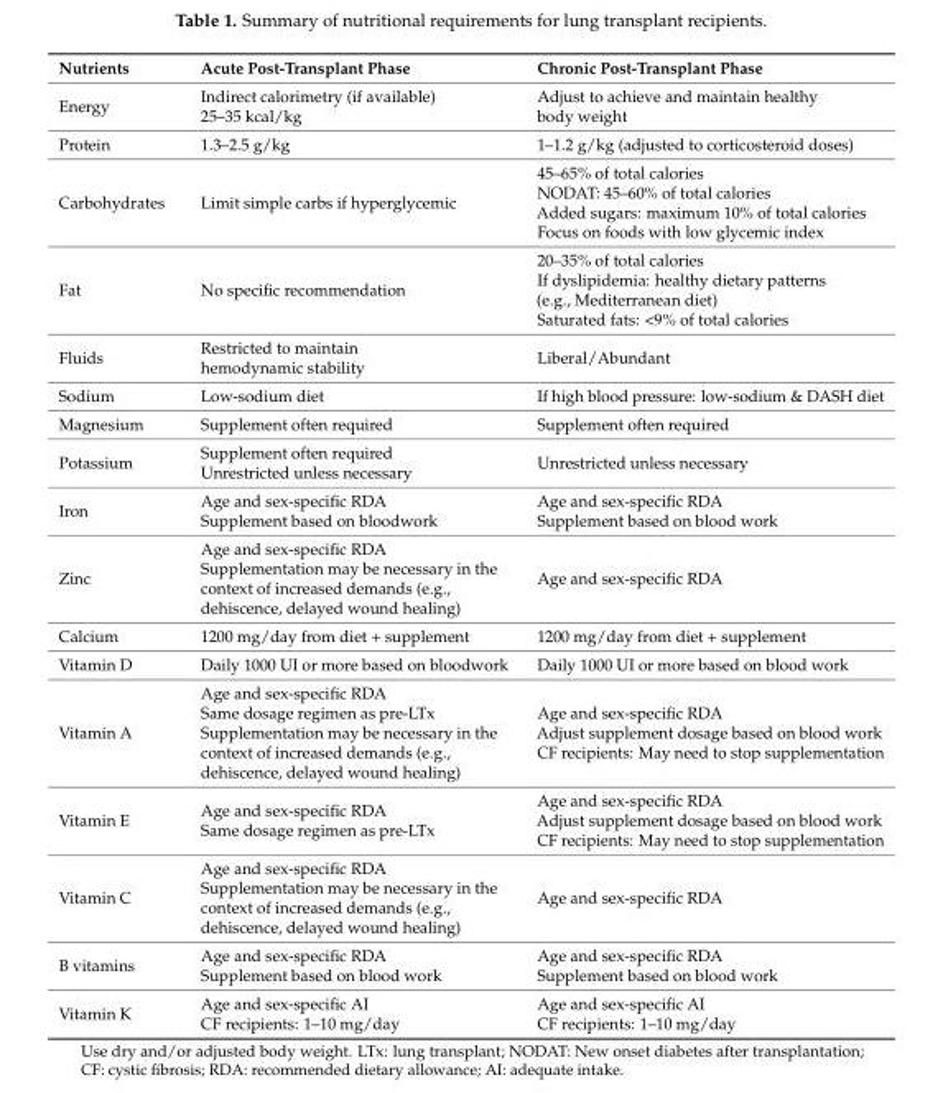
<table><thead><tr><td>Nutrients</td><td>Acute Post-Transplant Phase</td><td>Chronic Post-Transplant Phase</td></tr></thead><tbody><tr><td>Energy</td><td>Indirect calorimetry (if available) 25–35 kcal/kg</td><td>Adjust to achieve and maintain healthy body weight</td></tr><tr><td>Protein</td><td>1.3–2.5 g/kg</td><td>1–1.2 g/kg (adjusted to corticosteroid doses)</td></tr><tr><td>Carbohydrates</td><td>Limit simple carbs if hyperglycemic</td><td>45–65% of total calories NODAT: 45–60% of total calories Added sugars: maximum 10% of total calories Focus on foods with low glycemic index</td></tr><tr><td>Fat</td><td>No specific recommendation</td><td>20–35% of total calories If dyslipidemia: healthy dietary patterns (e.g., Mediterranean diet) Saturated fats: &lt;9% of total calories</td></tr><tr><td>Fluids</td><td>Restricted to maintain hemodynamic stability</td><td>Liberal/Abundant</td></tr><tr><td>Sodium</td><td>Low-sodium diet</td><td>If high blood pressure: low-sodium &amp; DASH diet</td></tr><tr><td>Magnesium</td><td>Supplement often required</td><td>Supplement often required</td></tr><tr><td>Potassium</td><td>Supplement often required Unrestricted unless necessary</td><td>Unrestricted unless necessary</td></tr><tr><td>Iron</td><td>Age and sex-specific RDA Supplement based on bloodwork</td><td>Age and sex-specific RDA Supplement based on blood work</td></tr><tr><td>Zinc</td><td>Age and sex-specific RDA Supplementation may be necessary in the context of increased demands (e.g., dehiscence, delayed wound healing)</td><td>Age and sex-specific RDA</td></tr><tr><td>Calcium</td><td>1200 mg/day from diet + supplement</td><td>1200 mg/day from diet + supplement</td></tr><tr><td>Vitamin D</td><td>Daily 1000 UI or more based on bloodwork</td><td>Daily 1000 UI or more based on blood work</td></tr><tr><td>Vitamin A</td><td>Age and sex-specific RDA Same dosage regimen as pre-LTx Supplementation may be necessary in the context of increased demands (e.g., dehiscence, delayed wound healing)</td><td>Age and sex-specific RDA Adjust supplement dosage based on blood work CF recipients: May need to stop supplementation</td></tr><tr><td>Vitamin E</td><td>Age and sex-specific RDA Same dosage regimen as pre-LTx</td><td>Age and sex-specific RDA Adjust supplement dosage based on blood work CF recipients: May need to stop supplementation</td></tr><tr><td>Vitamin C</td><td>Age and sex-specific RDA Supplementation may be necessary in the context of increased demands (e.g., dehiscence, delayed wound healing)</td><td>Age and sex-specific RDA</td></tr><tr><td>B vitamins</td><td>Age and sex-specific RDA Supplement based on blood work</td><td>Age and sex-specific RDA Supplement based on blood work</td></tr><tr><td>Vitamin K</td><td>Age and sex-specific AI CF recipients: 1–10 mg/day</td><td>Age and sex-specific AI CF recipients: 1–10 mg/day</td></tr></tbody></table>